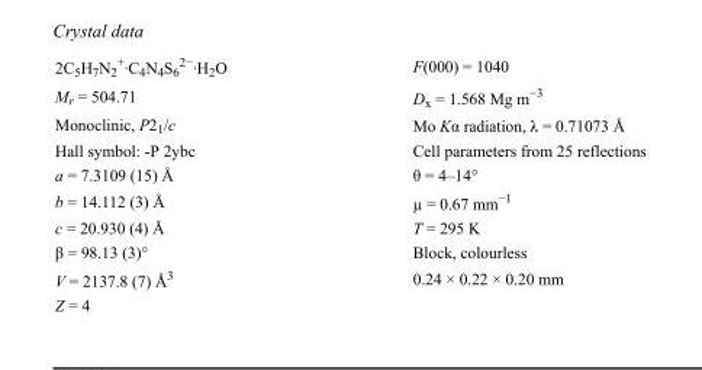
<table><tbody><tr><td>2C<sub>5</sub>H<sub>7</sub>N<sub>2</sub> <sup>+</sup>·C<sub>4</sub>N<sub>4</sub>S<sub>6</sub> <sup>2−</sup>·H<sub>2</sub>O</td><td>F(000) = 1040</td></tr><tr><td>M<sub>r</sub> = 504.71</td><td>D<sub>x</sub> = 1.568 Mg m<sup>−3</sup></td></tr><tr><td>Monoclinic, P2<sub>1</sub>/c</td><td>Mo Kα radiation, λ = 0.71073 Å</td></tr><tr><td>Hall symbol: -P 2ybc</td><td>Cell parameters from 25 reflections</td></tr><tr><td>a = 7.3109 (15) Å</td><td>θ = 4–14°</td></tr><tr><td>b = 14.112 (3) Å</td><td>µ = 0.67 mm<sup>−1</sup></td></tr><tr><td>c = 20.930 (4) Å</td><td>T = 295 K</td></tr><tr><td>β = 98.13 (3)°</td><td>Block, colourless</td></tr><tr><td>V = 2137.8 (7) Å<sup>3</sup></td><td>0.24 × 0.22 × 0.20 mm</td></tr><tr><td>Z = 4</td><td></td></tr></tbody></table>